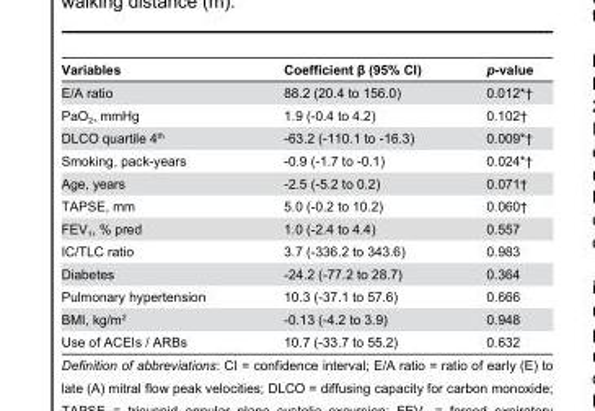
<table><thead><tr><td>Variables</td><td>Coefficient β (95% CI)</td><td>p-value</td></tr></thead><tbody><tr><td>E/A ratio</td><td>88.2 (20.4 to 156.0)</td><td>0.012*†</td></tr><tr><td>PaO<sub>2</sub>, mmHg</td><td>1.9 (-0.4 to 4.2)</td><td>0.102†</td></tr><tr><td>DLCO quartile 4<sup>th</sup></td><td>-63.2 (-110.1 to -16.3)</td><td>0.009*†</td></tr><tr><td>Smoking, pack-years</td><td>-0.9 (-1.7 to -0.1)</td><td>0.024*†</td></tr><tr><td>Age, years</td><td>-2.5 (-5.2 to 0.2)</td><td>0.071†</td></tr><tr><td>TAPSE, mm</td><td>5.0 (-0.2 to 10.2)</td><td>0.060†</td></tr><tr><td>FEV<sub>1</sub>, % pred</td><td>1.0 (-2.4 to 4.4)</td><td>0.557</td></tr><tr><td>IC/TLC ratio</td><td>3.7 (-336.2 to 343.6)</td><td>0.983</td></tr><tr><td>Diabetes</td><td>-24.2 (-77.2 to 28.7)</td><td>0.364</td></tr><tr><td>Pulmonary hypertension</td><td>10.3 (-37.1 to 57.6)</td><td>0.666</td></tr><tr><td>BMI, kg/m<sup>2</sup></td><td>-0.13 (-4.2 to 3.9)</td><td>0.948</td></tr><tr><td>Use of ACEIs / ARBs</td><td>10.7 (-33.7 to 55.2)</td><td>0.632</td></tr></tbody></table>